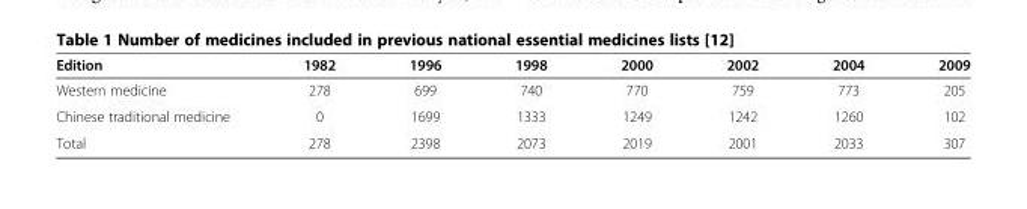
<table><thead><tr><td>Edition</td><td>1982</td><td>1996</td><td>1998</td><td>2000</td><td>2002</td><td>2004</td><td>2009</td></tr></thead><tbody><tr><td>Western medicine</td><td>278</td><td>699</td><td>740</td><td>770</td><td>759</td><td>773</td><td>205</td></tr><tr><td>Chinese traditional medicine</td><td>0</td><td>1699</td><td>1333</td><td>1249</td><td>1242</td><td>1260</td><td>102</td></tr><tr><td>Total</td><td>278</td><td>2398</td><td>2073</td><td>2019</td><td>2001</td><td>2033</td><td>307</td></tr></tbody></table>